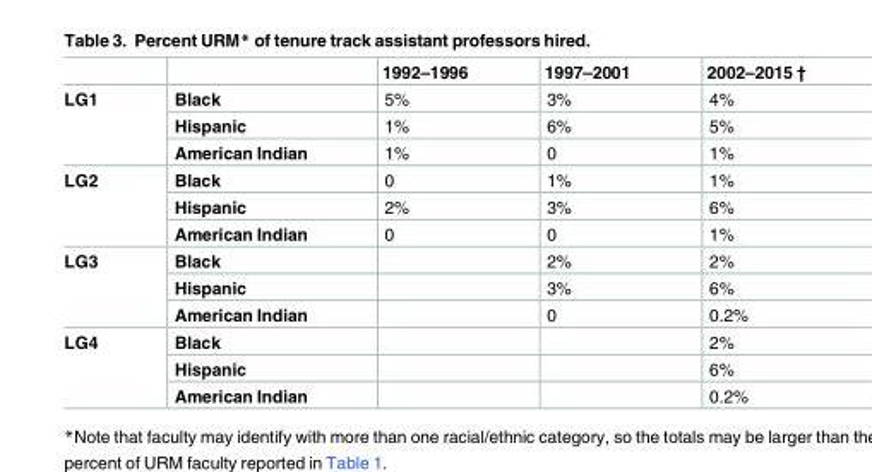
<table><thead><tr><td></td><td></td><td>1992–1996</td><td>1997–2001</td><td>2002–2015 †</td></tr></thead><tbody><tr><td rowspan="3">LG1</td><td>Black</td><td>5%</td><td>3%</td><td>4%</td></tr><tr><td>Hispanic</td><td>1%</td><td>6%</td><td>5%</td></tr><tr><td>American Indian</td><td>1%</td><td>0</td><td>1%</td></tr><tr><td rowspan="3">LG2</td><td>Black</td><td>0</td><td>1%</td><td>1%</td></tr><tr><td>Hispanic</td><td>2%</td><td>3%</td><td>6%</td></tr><tr><td>American Indian</td><td>0</td><td>0</td><td>1%</td></tr><tr><td rowspan="3">LG3</td><td>Black</td><td></td><td>2%</td><td>2%</td></tr><tr><td>Hispanic</td><td></td><td>3%</td><td>6%</td></tr><tr><td>American Indian</td><td></td><td>0</td><td>0.2%</td></tr><tr><td rowspan="3">LG4</td><td>Black</td><td></td><td></td><td>2%</td></tr><tr><td>Hispanic</td><td></td><td></td><td>6%</td></tr><tr><td>American Indian</td><td></td><td></td><td>0.2%</td></tr></tbody></table>